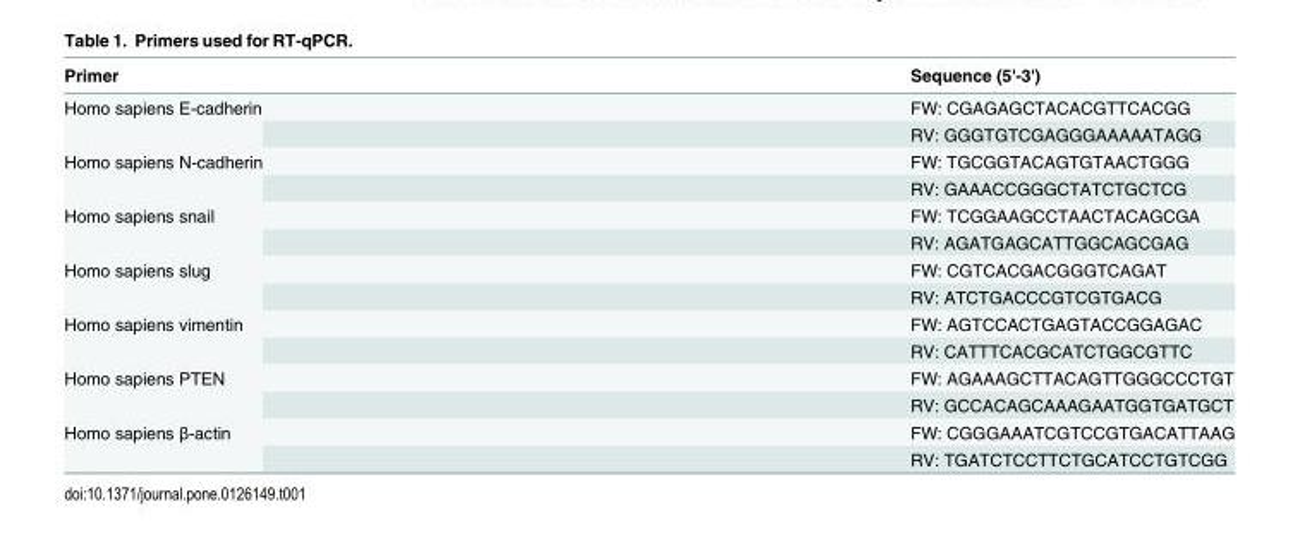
<table><thead><tr><td>Primer</td><td>Sequence (5&#x27;-3&#x27;)</td></tr></thead><tbody><tr><td rowspan="2">Homo sapiens E-cadherin</td><td>FW: CGAGAGCTACACGTTCACGG</td></tr><tr><td>RV: GGGTGTCGAGGGAAAAATAGG</td></tr><tr><td rowspan="2">Homo sapiens N-cadherin</td><td>FW: TGCGGTACAGTGTAACTGGG</td></tr><tr><td>RV: GAAACCGGGCTATCTGCTCG</td></tr><tr><td rowspan="2">Homo sapiens snail</td><td>FW: TCGGAAGCCTAACTACAGCGA</td></tr><tr><td>RV: AGATGAGCATTGGCAGCGAG</td></tr><tr><td rowspan="2">Homo sapiens slug</td><td>FW: CGTCACGACGGGTCAGAT</td></tr><tr><td>RV: ATCTGACCCGTCGTGACG</td></tr><tr><td rowspan="2">Homo sapiens vimentin</td><td>FW: AGTCCACTGAGTACCGGAGAC</td></tr><tr><td>RV: CATTTCACGCATCTGGCGTTC</td></tr><tr><td rowspan="2">Homo sapiens PTEN</td><td>FW: AGAAAGCTTACAGTTGGGCCCTGT</td></tr><tr><td>RV: GCCACAGCAAAGAATGGTGATGCT</td></tr><tr><td rowspan="2">Homo sapiens β-actin</td><td>FW: CGGGAAATCGTCCGTGACATTAAG</td></tr><tr><td>RV: TGATCTCCTTCTGCATCCTGTCGG</td></tr></tbody></table>